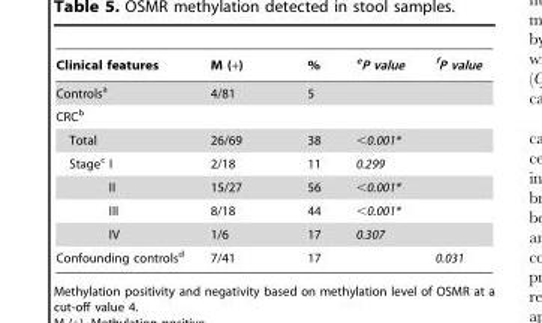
<table><thead><tr><td>Clinical features</td><td>M (+)</td><td>%</td><td>eP value</td><td>fP value</td></tr></thead><tbody><tr><td>Controls<sup>a</sup></td><td>4/81</td><td>5</td><td></td><td></td></tr><tr><td colspan="5">CRC<sup>b</sup></td></tr><tr><td>Total</td><td>26/69</td><td>38</td><td>&lt;0.001*</td><td></td></tr><tr><td>Stage<sup>c</sup> I</td><td>2/18</td><td>11</td><td>0.299</td><td></td></tr><tr><td>II</td><td>15/27</td><td>56</td><td>&lt;0.001*</td><td></td></tr><tr><td>III</td><td>8/18</td><td>44</td><td>&lt;0.001*</td><td></td></tr><tr><td>IV</td><td>1/6</td><td>17</td><td>0.307</td><td></td></tr><tr><td>Confounding controls<sup>d</sup></td><td>7/41</td><td>17</td><td></td><td>0.031</td></tr></tbody></table>